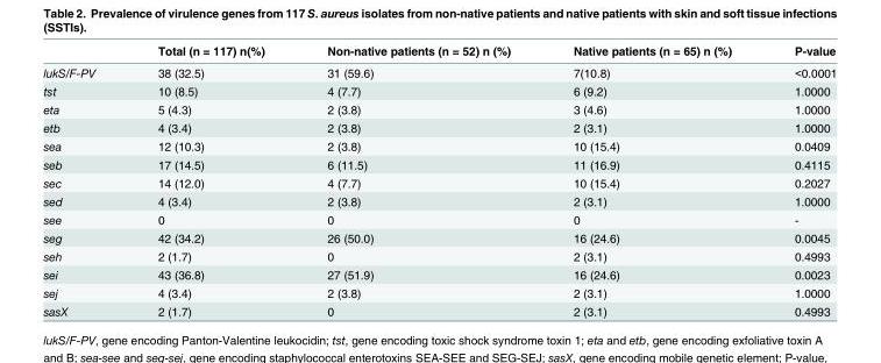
<table><thead><tr><td></td><td>Total (n = 117) n(%)</td><td>Non-native patients (n = 52) n (%)</td><td>Native patients (n = 65) n (%)</td><td>P-value</td></tr></thead><tbody><tr><td>lukS/F-PV</td><td>38 (32.5)</td><td>31 (59.6)</td><td>7(10.8)</td><td>&lt;0.0001</td></tr><tr><td>tst</td><td>10 (8.5)</td><td>4 (7.7)</td><td>6 (9.2)</td><td>1.0000</td></tr><tr><td>eta</td><td>5 (4.3)</td><td>2 (3.8)</td><td>3 (4.6)</td><td>1.0000</td></tr><tr><td>etb</td><td>4 (3.4)</td><td>2 (3.8)</td><td>2 (3.1)</td><td>1.0000</td></tr><tr><td>sea</td><td>12 (10.3)</td><td>2 (3.8)</td><td>10 (15.4)</td><td>0.0409</td></tr><tr><td>seb</td><td>17 (14.5)</td><td>6 (11.5)</td><td>11 (16.9)</td><td>0.4115</td></tr><tr><td>sec</td><td>14 (12.0)</td><td>4 (7.7)</td><td>10 (15.4)</td><td>0.2027</td></tr><tr><td>sed</td><td>4 (3.4)</td><td>2 (3.8)</td><td>2 (3.1)</td><td>1.0000</td></tr><tr><td>see</td><td>0</td><td>0</td><td>0</td><td>-</td></tr><tr><td>seg</td><td>42 (34.2)</td><td>26 (50.0)</td><td>16 (24.6)</td><td>0.0045</td></tr><tr><td>seh</td><td>2 (1.7)</td><td>0</td><td>2 (3.1)</td><td>0.4993</td></tr><tr><td>sei</td><td>43 (36.8)</td><td>27 (51.9)</td><td>16 (24.6)</td><td>0.0023</td></tr><tr><td>sej</td><td>4 (3.4)</td><td>2 (3.8)</td><td>2 (3.1)</td><td>1.0000</td></tr><tr><td>sasX</td><td>2 (1.7)</td><td>0</td><td>2 (3.1)</td><td>0.4993</td></tr></tbody></table>